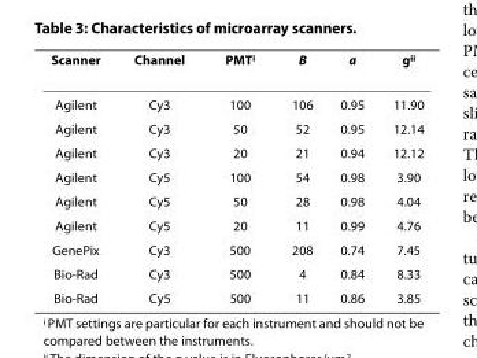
<table><thead><tr><td>Scanner</td><td>Channel</td><td>PMT<sup>i</sup></td><td>B</td><td>a</td><td>g<sup>ii</sup></td></tr></thead><tbody><tr><td>Agilent</td><td>Cy3</td><td>100</td><td>106</td><td>0.95</td><td>11.90</td></tr><tr><td>Agilent</td><td>Cy3</td><td>50</td><td>52</td><td>0.95</td><td>12.14</td></tr><tr><td>Agilent</td><td>Cy3</td><td>20</td><td>21</td><td>0.94</td><td>12.12</td></tr><tr><td>Agilent</td><td>Cy5</td><td>100</td><td>54</td><td>0.98</td><td>3.90</td></tr><tr><td>Agilent</td><td>Cy5</td><td>50</td><td>28</td><td>0.98</td><td>4.04</td></tr><tr><td>Agilent</td><td>Cy5</td><td>20</td><td>11</td><td>0.99</td><td>4.76</td></tr><tr><td>GenePix</td><td>Cy3</td><td>500</td><td>208</td><td>0.74</td><td>7.45</td></tr><tr><td>Bio-Rad</td><td>Cy3</td><td>500</td><td>4</td><td>0.84</td><td>8.33</td></tr><tr><td>Bio-Rad</td><td>Cy5</td><td>500</td><td>11</td><td>0.86</td><td>3.85</td></tr></tbody></table>